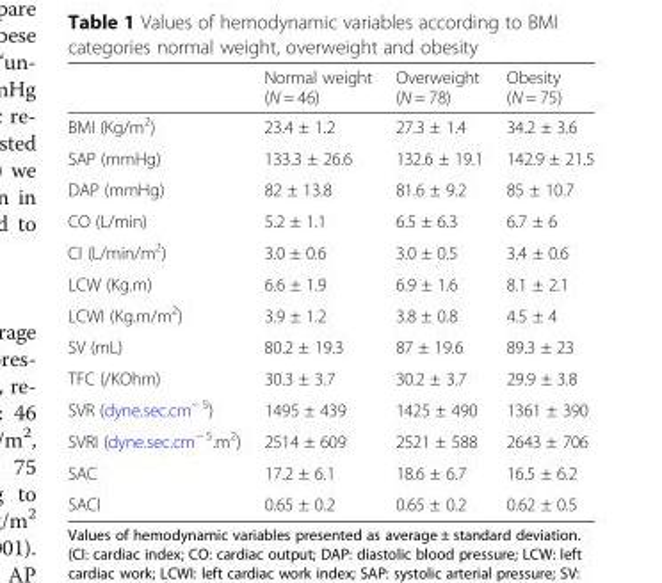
<table><thead><tr><td></td><td>Normal weight (N = 46)</td><td>Overweight (N = 78)</td><td>Obesity (N = 75)</td></tr></thead><tbody><tr><td>BMI (Kg/m<sup>2</sup>)</td><td>23.4 ± 1.2</td><td>27.3 ± 1.4</td><td>34.2 ± 3.6</td></tr><tr><td>SAP (mmHg)</td><td>133.3 ± 26.6</td><td>132.6 ± 19.1</td><td>142.9 ± 21.5</td></tr><tr><td>DAP (mmHg)</td><td>82 ± 13.8</td><td>81.6 ± 9.2</td><td>85 ± 10.7</td></tr><tr><td>CO (L/min)</td><td>5.2 ± 1.1</td><td>6.5 ± 6.3</td><td>6.7 ± 6</td></tr><tr><td>CI (L/min/m<sup>2</sup>)</td><td>3.0 ± 0.6</td><td>3.0 ± 0.5</td><td>3.4 ± 0.6</td></tr><tr><td>LCW (Kg.m)</td><td>6.6 ± 1.9</td><td>6.9 ± 1.6</td><td>8.1 ± 2.1</td></tr><tr><td>LCWI (Kg.m/m<sup>2</sup>)</td><td>3.9 ± 1.2</td><td>3.8 ± 0.8</td><td>4.5 ± 4</td></tr><tr><td>SV (mL)</td><td>80.2 ± 19.3</td><td>87 ± 19.6</td><td>89.3 ± 23</td></tr><tr><td>TFC (/KOhm)</td><td>30.3 ± 3.7</td><td>30.2 ± 3.7</td><td>29.9 ± 3.8</td></tr><tr><td>SVR (dyne.sec.cm<sup>− 5</sup>)</td><td>1495 ± 439</td><td>1425 ± 490</td><td>1361 ± 390</td></tr><tr><td>SVRI (dyne.sec.cm<sup>− 5</sup>.m<sup>2</sup>)</td><td>2514 ± 609</td><td>2521 ± 588</td><td>2643 ± 706</td></tr><tr><td>SAC</td><td>17.2 ± 6.1</td><td>18.6 ± 6.7</td><td>16.5 ± 6.2</td></tr><tr><td>SACI</td><td>0.65 ± 0.2</td><td>0.65 ± 0.2</td><td>0.62 ± 0.5</td></tr></tbody></table>